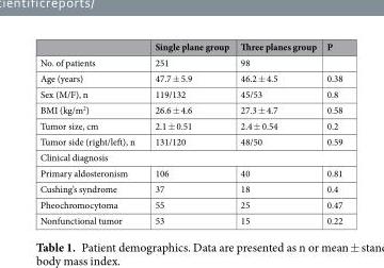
<table><thead><tr><td></td><td>Single plane group</td><td>Three planes group</td><td>P</td></tr></thead><tbody><tr><td>No. of patients</td><td>251</td><td>98</td><td></td></tr><tr><td>Age (years)</td><td>47.7 ± 5.9</td><td>46.2 ± 4.5</td><td>0.38</td></tr><tr><td>Sex (M/F), n</td><td>119/132</td><td>45/53</td><td>0.8</td></tr><tr><td>BMI (kg/m<sup>2</sup>)</td><td>26.6 ± 4.6</td><td>27.3 ± 4.7</td><td>0.58</td></tr><tr><td>Tumor size, cm</td><td>2.1 ± 0.51</td><td>2.4 ± 0.54</td><td>0.2</td></tr><tr><td>Tumor side (right/left), n</td><td>131/120</td><td>48/50</td><td>0.59</td></tr><tr><td colspan="4">Clinical diagnosis</td></tr><tr><td>Primary aldosteronism</td><td>106</td><td>40</td><td>0.81</td></tr><tr><td>Cushing’s syndrome</td><td>37</td><td>18</td><td>0.4</td></tr><tr><td>Pheochromocytoma</td><td>55</td><td>25</td><td>0.47</td></tr><tr><td>Nonfunctional tumor</td><td>53</td><td>15</td><td>0.22</td></tr></tbody></table>